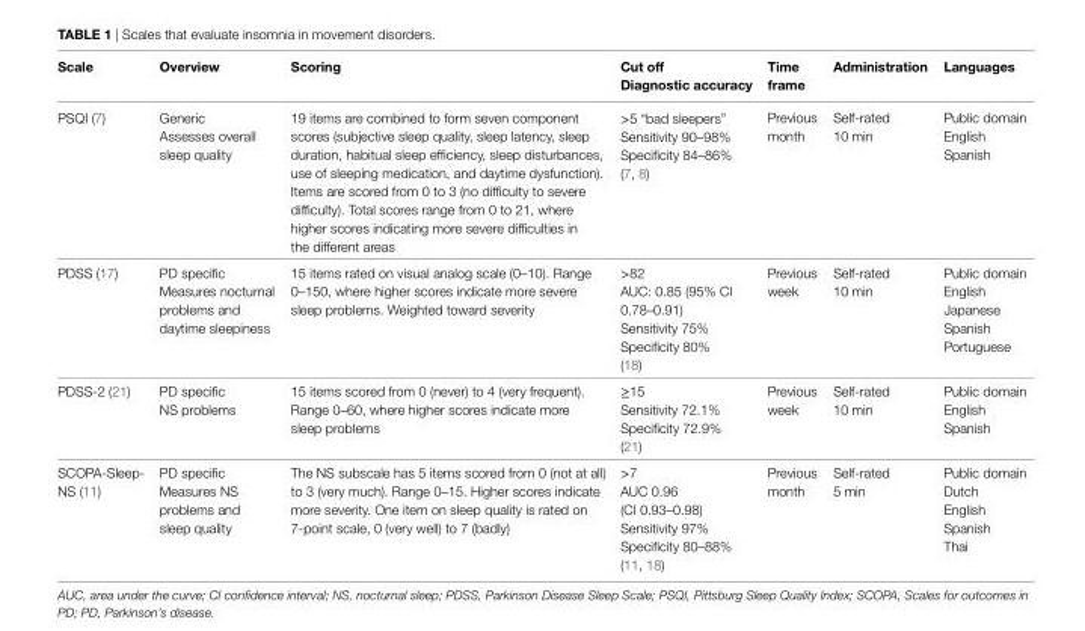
<table><thead><tr><td>Scale</td><td>Overview</td><td>Scoring</td><td>Cut off Diagnostic accuracy</td><td>Time frame</td><td>Administration</td><td>Languages</td></tr></thead><tbody><tr><td>PSQI (7)</td><td>Generic Assesses overall sleep quality</td><td>19 items are combined to form seven component scores (subjective sleep quality, sleep latency, sleep duration, habitual sleep efficiency, sleep disturbances, use of sleeping medication, and daytime dysfunction). Items are scored from 0 to 3 (no difficulty to severe difficulty). Total scores range from 0 to 21, where higher scores indicating more severe difficulties in the different areas</td><td>&gt;5 “bad sleepers” Sensitivity 90–98% Specificity 84–86% (7, 8)</td><td>Previous month</td><td>Self-rated 10 min</td><td>Public domain English Spanish</td></tr><tr><td>PDSS (17)</td><td>PD specific Measures nocturnal problems and daytime sleepiness</td><td>15 items rated on visual analog scale (0–10). Range 0–150, where higher scores indicate more severe sleep problems. Weighted toward severity</td><td>&gt;82 AUC: 0.85 (95% CI 0.78–0.91) Sensitivity 75% Specificity 80% (18)</td><td>Previous week</td><td>Self-rated 10 min</td><td>Public domain English Japanese Spanish Portuguese</td></tr><tr><td>PDSS-2 (21)</td><td>PD specific NS problems</td><td>15 items scored from 0 (never) to 4 (very frequent). Range 0–60, where higher scores indicate more sleep problems</td><td>≥15 Sensitivity 72.1% Specificity 72.9% (21)</td><td>Previous week</td><td>Self-rated 10 min</td><td>Public domain English Spanish</td></tr><tr><td>SCOPA-Sleep- NS (11)</td><td>PD specific Measures NS problems and sleep quality</td><td>The NS subscale has 5 items scored from 0 (not at all) to 3 (very much). Range 0–15. Higher scores indicate more severity. One item on sleep quality is rated on 7-point scale, 0 (very well) to 7 (badly)</td><td>&gt;7 AUC 0.96 (CI 0.93–0.98) Sensitivity 97% Specificity 80–88% (11, 18)</td><td>Previous month</td><td>Self-rated 5 min</td><td>Public domain Dutch English Spanish Thai</td></tr></tbody></table>